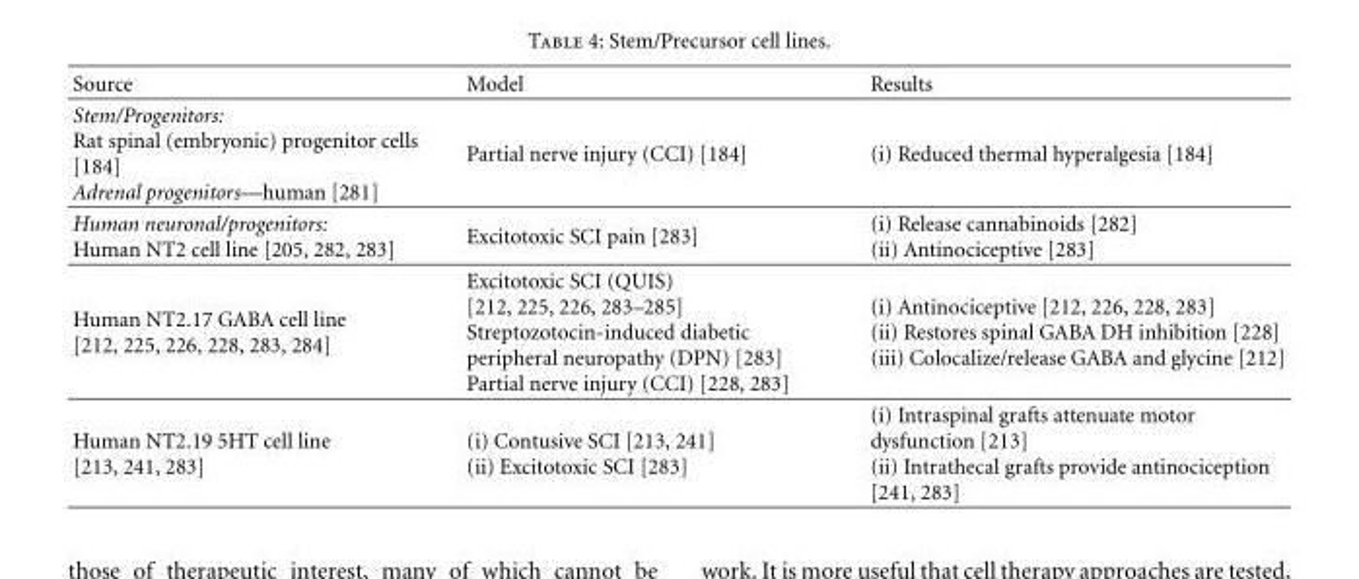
<table><thead><tr><td>Source</td><td>Model</td><td>Results</td></tr></thead><tbody><tr><td>Stem/Progenitors: Rat spinal (embryonic) progenitor cells [184] Adrenal progenitors—human [281]</td><td>Partial nerve injury (CCI) [184]</td><td>(i) Reduced thermal hyperalgesia [184]</td></tr><tr><td>Human neuronal/progenitors: Human NT2 cell line [205, 282, 283]</td><td>Excitotoxic SCI pain [283]</td><td>(i) Release cannabinoids [282] (ii) Antinociceptive [283]</td></tr><tr><td>Human NT2.17 GABA cell line [212, 225, 226, 228, 283, 284]</td><td>Excitotoxic SCI (QUIS) [212, 225, 226, 283–285] Streptozotocin-induced diabetic peripheral neuropathy (DPN) [283] Partial nerve injury (CCI) [228, 283]</td><td>(i) Antinociceptive [212, 226, 228, 283] (ii) Restores spinal GABA DH inhibition [228] (iii) Colocalize/release GABA and glycine [212]</td></tr><tr><td>Human NT2.19 5HT cell line [213, 241, 283]</td><td>(i) Contusive SCI [213, 241] (ii) Excitotoxic SCI [283]</td><td>(i) Intraspinal grafts attenuate motor dysfunction [213] (ii) Intrathecal grafts provide antinociception [241, 283]</td></tr></tbody></table>